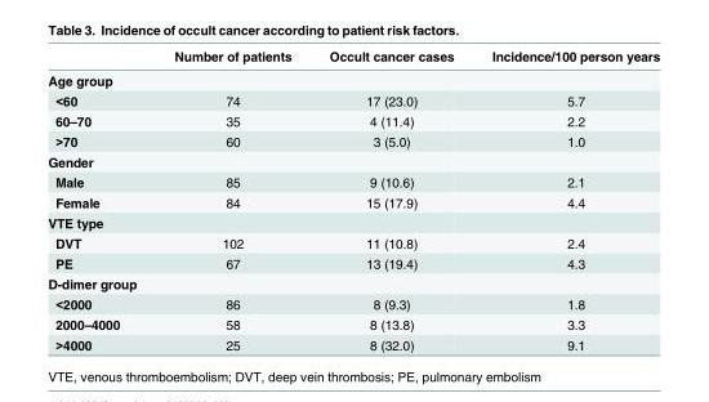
<table><thead><tr><td></td><td>Number of patients</td><td>Occult cancer cases</td><td>Incidence/100 person years</td></tr></thead><tbody><tr><td colspan="4">Age group</td></tr><tr><td>&lt;60</td><td>74</td><td>17 (23.0)</td><td>5.7</td></tr><tr><td>60–70</td><td>35</td><td>4 (11.4)</td><td>2.2</td></tr><tr><td>&gt;70</td><td>60</td><td>3 (5.0)</td><td>1.0</td></tr><tr><td colspan="4">Gender</td></tr><tr><td>Male</td><td>85</td><td>9 (10.6)</td><td>2.1</td></tr><tr><td>Female</td><td>84</td><td>15 (17.9)</td><td>4.4</td></tr><tr><td colspan="4">VTE type</td></tr><tr><td>DVT</td><td>102</td><td>11 (10.8)</td><td>2.4</td></tr><tr><td>PE</td><td>67</td><td>13 (19.4)</td><td>4.3</td></tr><tr><td colspan="4">D-dimer group</td></tr><tr><td>&lt;2000</td><td>86</td><td>8 (9.3)</td><td>1.8</td></tr><tr><td>2000–4000</td><td>58</td><td>8 (13.8)</td><td>3.3</td></tr><tr><td>&gt;4000</td><td>25</td><td>8 (32.0)</td><td>9.1</td></tr></tbody></table>